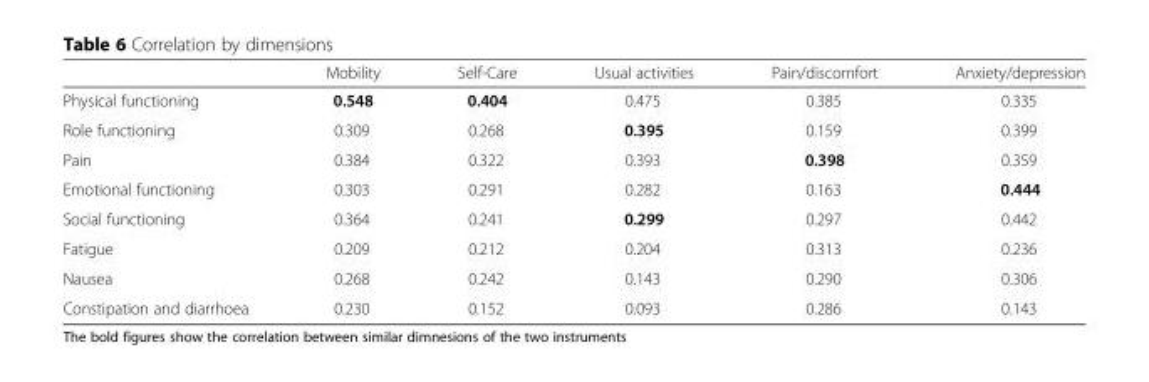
<table><thead><tr><td></td><td>Mobility</td><td>Self-Care</td><td>Usual activities</td><td>Pain/discomfort</td><td>Anxiety/depression</td></tr></thead><tbody><tr><td>Physical functioning</td><td>0.548</td><td>0.404</td><td>0.475</td><td>0.385</td><td>0.335</td></tr><tr><td>Role functioning</td><td>0.309</td><td>0.268</td><td>0.395</td><td>0.159</td><td>0.399</td></tr><tr><td>Pain</td><td>0.384</td><td>0.322</td><td>0.393</td><td>0.398</td><td>0.359</td></tr><tr><td>Emotional functioning</td><td>0.303</td><td>0.291</td><td>0.282</td><td>0.163</td><td>0.444</td></tr><tr><td>Social functioning</td><td>0.364</td><td>0.241</td><td>0.299</td><td>0.297</td><td>0.442</td></tr><tr><td>Fatigue</td><td>0.209</td><td>0.212</td><td>0.204</td><td>0.313</td><td>0.236</td></tr><tr><td>Nausea</td><td>0.268</td><td>0.242</td><td>0.143</td><td>0.290</td><td>0.306</td></tr><tr><td>Constipation and diarrhoea</td><td>0.230</td><td>0.152</td><td>0.093</td><td>0.286</td><td>0.143</td></tr></tbody></table>